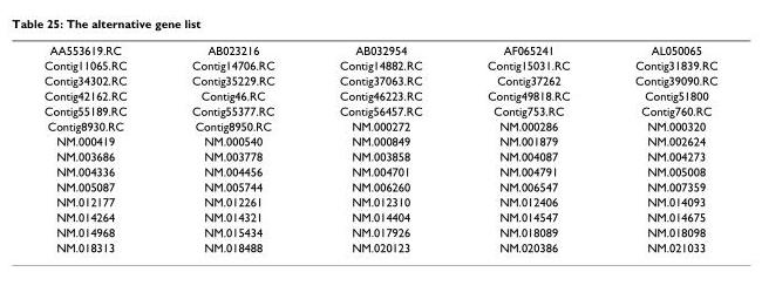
<table><tbody><tr><td>AA553619.RC</td><td>AB023216</td><td>AB032954</td><td>AF065241</td><td>AL050065</td></tr><tr><td>Contig11065.RC</td><td>Contig14706.RC</td><td>Contig14882.RC</td><td>Contig15031.RC</td><td>Contig31839.RC</td></tr><tr><td>Contig34302.RC</td><td>Contig35229.RC</td><td>Contig37063.RC</td><td>Contig37262</td><td>Contig39090.RC</td></tr><tr><td>Contig42162.RC</td><td>Contig46.RC</td><td>Contig46223.RC</td><td>Contig49818.RC</td><td>Contig51800</td></tr><tr><td>Contig55189.RC</td><td>Contig55377.RC</td><td>Contig56457.RC</td><td>Contig753.RC</td><td>Contig760.RC</td></tr><tr><td>Contig8930.RC</td><td>Contig8950.RC</td><td>NM.000272</td><td>NM.000286</td><td>NM.000320</td></tr><tr><td>NM.000419</td><td>NM.000540</td><td>NM.000849</td><td>NM.001879</td><td>NM.002624</td></tr><tr><td>NM.003686</td><td>NM.003778</td><td>NM.003858</td><td>NM.004087</td><td>NM.004273</td></tr><tr><td>NM.004336</td><td>NM.004456</td><td>NM.004701</td><td>NM.004791</td><td>NM.005008</td></tr><tr><td>NM.005087</td><td>NM.005744</td><td>NM.006260</td><td>NM.006547</td><td>NM.007359</td></tr><tr><td>NM.012177</td><td>NM.012261</td><td>NM.012310</td><td>NM.012406</td><td>NM.014093</td></tr><tr><td>NM.014264</td><td>NM.014321</td><td>NM.014404</td><td>NM.014547</td><td>NM.014675</td></tr><tr><td>NM.014968</td><td>NM.015434</td><td>NM.017926</td><td>NM.018089</td><td>NM.018098</td></tr><tr><td>NM.018313</td><td>NM.018488</td><td>NM.020123</td><td>NM.020386</td><td>NM.021033</td></tr></tbody></table>